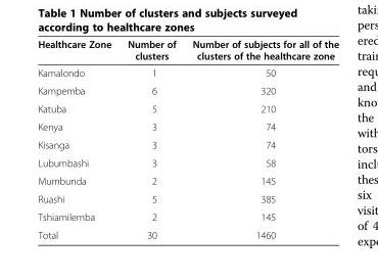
<table><thead><tr><td>Healthcare Zone</td><td>Number of clusters</td><td>Number of subjects for all of the clusters of the healthcare zone</td></tr></thead><tbody><tr><td>Kamalondo</td><td>1</td><td>50</td></tr><tr><td>Kampemba</td><td>6</td><td>320</td></tr><tr><td>Katuba</td><td>5</td><td>210</td></tr><tr><td>Kenya</td><td>3</td><td>74</td></tr><tr><td>Kisanga</td><td>3</td><td>74</td></tr><tr><td>Lubumbashi</td><td>3</td><td>58</td></tr><tr><td>Mumbunda</td><td>2</td><td>145</td></tr><tr><td>Ruashi</td><td>5</td><td>385</td></tr><tr><td>Tshiamilemba</td><td>2</td><td>145</td></tr><tr><td>Total</td><td>30</td><td>1460</td></tr></tbody></table>